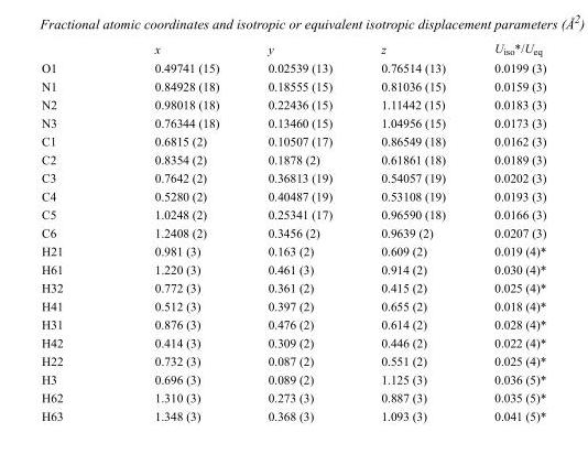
<table><thead><tr><td></td><td>x</td><td>y</td><td>z</td><td>U<sub>iso</sub>*/U<sub>eq</sub></td></tr></thead><tbody><tr><td>O1</td><td>0.49741 (15)</td><td>0.02539 (13)</td><td>0.76514 (13)</td><td>0.0199 (3)</td></tr><tr><td>N1</td><td>0.84928 (18)</td><td>0.18555 (15)</td><td>0.81036 (15)</td><td>0.0159 (3)</td></tr><tr><td>N2</td><td>0.98018 (18)</td><td>0.22436 (15)</td><td>1.11442 (15)</td><td>0.0183 (3)</td></tr><tr><td>N3</td><td>0.76344 (18)</td><td>0.13460 (15)</td><td>1.04956 (15)</td><td>0.0173 (3)</td></tr><tr><td>C1</td><td>0.6815 (2)</td><td>0.10507 (17)</td><td>0.86549 (18)</td><td>0.0162 (3)</td></tr><tr><td>C2</td><td>0.8354 (2)</td><td>0.1878 (2)</td><td>0.61861 (18)</td><td>0.0189 (3)</td></tr><tr><td>C3</td><td>0.7642 (2)</td><td>0.36813 (19)</td><td>0.54057 (19)</td><td>0.0202 (3)</td></tr><tr><td>C4</td><td>0.5280 (2)</td><td>0.40487 (19)</td><td>0.53108 (19)</td><td>0.0193 (3)</td></tr><tr><td>C5</td><td>1.0248 (2)</td><td>0.25341 (17)</td><td>0.96590 (18)</td><td>0.0166 (3)</td></tr><tr><td>C6</td><td>1.2408 (2)</td><td>0.3456 (2)</td><td>0.9639 (2)</td><td>0.0207 (3)</td></tr><tr><td>H21</td><td>0.981 (3)</td><td>0.163 (2)</td><td>0.609 (2)</td><td>0.019 (4)*</td></tr><tr><td>H61</td><td>1.220 (3)</td><td>0.461 (3)</td><td>0.914 (2)</td><td>0.030 (4)*</td></tr><tr><td>H32</td><td>0.772 (3)</td><td>0.361 (2)</td><td>0.415 (2)</td><td>0.025 (4)*</td></tr><tr><td>H41</td><td>0.512 (3)</td><td>0.397 (2)</td><td>0.655 (2)</td><td>0.018 (4)*</td></tr><tr><td>H31</td><td>0.876 (3)</td><td>0.476 (2)</td><td>0.614 (2)</td><td>0.028 (4)*</td></tr><tr><td>H42</td><td>0.414 (3)</td><td>0.309 (2)</td><td>0.446 (2)</td><td>0.022 (4)*</td></tr><tr><td>H22</td><td>0.732 (3)</td><td>0.087 (2)</td><td>0.551 (2)</td><td>0.025 (4)*</td></tr><tr><td>H3</td><td>0.696 (3)</td><td>0.089 (2)</td><td>1.125 (3)</td><td>0.036 (5)*</td></tr><tr><td>H62</td><td>1.310 (3)</td><td>0.273 (3)</td><td>0.887 (3)</td><td>0.035 (5)*</td></tr><tr><td>H63</td><td>1.348 (3)</td><td>0.368 (3)</td><td>1.093 (3)</td><td>0.041 (5)*</td></tr></tbody></table>